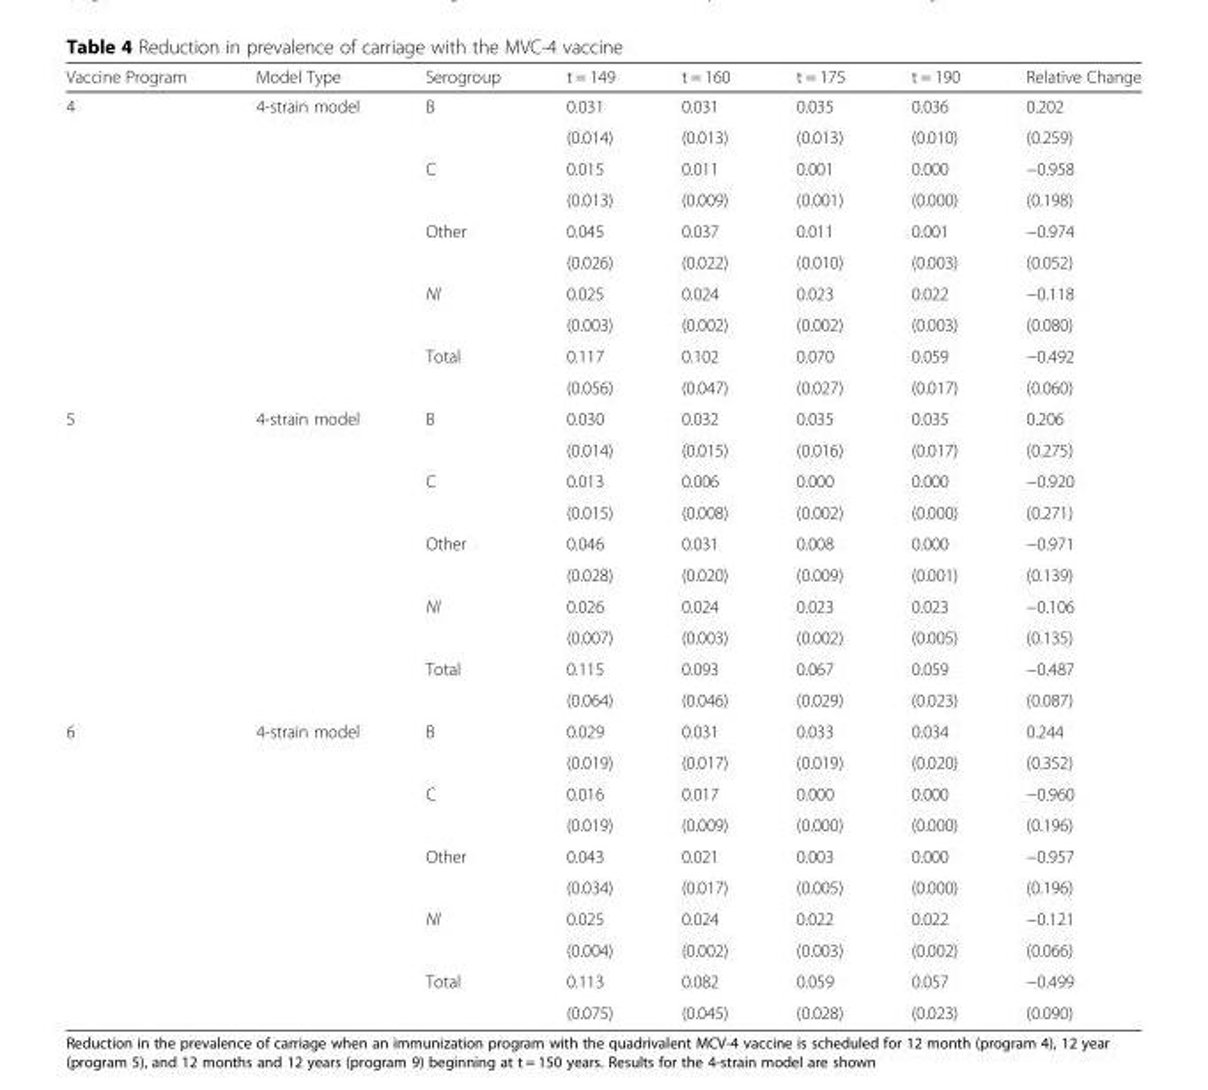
<table><thead><tr><td>Vaccine Program</td><td>Model Type</td><td>Serogroup</td><td>t = 149</td><td>t = 160</td><td>t = 175</td><td>t = 190</td><td>Relative Change</td></tr></thead><tbody><tr><td rowspan="10">4</td><td rowspan="10">4-strain model</td><td>B</td><td>0.031</td><td>0.031</td><td>0.035</td><td>0.036</td><td>0.202</td></tr><tr><td></td><td>(0.014)</td><td>(0.013)</td><td>(0.013)</td><td>(0.010)</td><td>(0.259)</td></tr><tr><td>C</td><td>0.015</td><td>0.011</td><td>0.001</td><td>0.000</td><td>−0.958</td></tr><tr><td></td><td>(0.013)</td><td>(0.009)</td><td>(0.001)</td><td>(0.000)</td><td>(0.198)</td></tr><tr><td>Other</td><td>0.045</td><td>0.037</td><td>0.011</td><td>0.001</td><td>−0.974</td></tr><tr><td></td><td>(0.026)</td><td>(0.022)</td><td>(0.010)</td><td>(0.003)</td><td>(0.052)</td></tr><tr><td>Nl</td><td>0.025</td><td>0.024</td><td>0.023</td><td>0.022</td><td>−0.118</td></tr><tr><td></td><td>(0.003)</td><td>(0.002)</td><td>(0.002)</td><td>(0.003)</td><td>(0.080)</td></tr><tr><td>Total</td><td>0.117</td><td>0.102</td><td>0.070</td><td>0.059</td><td>−0.492</td></tr><tr><td></td><td>(0.056)</td><td>(0.047)</td><td>(0.027)</td><td>(0.017)</td><td>(0.060)</td></tr><tr><td rowspan="10">5</td><td rowspan="10">4-strain model</td><td>B</td><td>0.030</td><td>0.032</td><td>0.035</td><td>0.035</td><td>0.206</td></tr><tr><td></td><td>(0.014)</td><td>(0.015)</td><td>(0.016)</td><td>(0.017)</td><td>(0.275)</td></tr><tr><td>C</td><td>0.013</td><td>0.006</td><td>0.000</td><td>0.000</td><td>−0.920</td></tr><tr><td></td><td>(0.015)</td><td>(0.008)</td><td>(0.002)</td><td>(0.000)</td><td>(0.271)</td></tr><tr><td>Other</td><td>0.046</td><td>0.031</td><td>0.008</td><td>0.000</td><td>−0.971</td></tr><tr><td></td><td>(0.028)</td><td>(0.020)</td><td>(0.009)</td><td>(0.001)</td><td>(0.139)</td></tr><tr><td>Nl</td><td>0.026</td><td>0.024</td><td>0.023</td><td>0.023</td><td>−0.106</td></tr><tr><td></td><td>(0.007)</td><td>(0.003)</td><td>(0.002)</td><td>(0.005)</td><td>(0.135)</td></tr><tr><td>Total</td><td>0.115</td><td>0.093</td><td>0.067</td><td>0.059</td><td>−0.487</td></tr><tr><td></td><td>(0.064)</td><td>(0.046)</td><td>(0.029)</td><td>(0.023)</td><td>(0.087)</td></tr><tr><td rowspan="10">6</td><td rowspan="10">4-strain model</td><td>B</td><td>0.029</td><td>0.031</td><td>0.033</td><td>0.034</td><td>0.244</td></tr><tr><td></td><td>(0.019)</td><td>(0.017)</td><td>(0.019)</td><td>(0.020)</td><td>(0.352)</td></tr><tr><td>C</td><td>0.016</td><td>0.017</td><td>0.000</td><td>0.000</td><td>−0.960</td></tr><tr><td></td><td>(0.019)</td><td>(0.009)</td><td>(0.000)</td><td>(0.000)</td><td>(0.196)</td></tr><tr><td>Other</td><td>0.043</td><td>0.021</td><td>0.003</td><td>0.000</td><td>−0.957</td></tr><tr><td></td><td>(0.034)</td><td>(0.017)</td><td>(0.005)</td><td>(0.000)</td><td>(0.196)</td></tr><tr><td>Nl</td><td>0.025</td><td>0.024</td><td>0.022</td><td>0.022</td><td>−0.121</td></tr><tr><td></td><td>(0.004)</td><td>(0.002)</td><td>(0.003)</td><td>(0.002)</td><td>(0.066)</td></tr><tr><td>Total</td><td>0.113</td><td>0.082</td><td>0.059</td><td>0.057</td><td>−0.499</td></tr><tr><td></td><td>(0.075)</td><td>(0.045)</td><td>(0.028)</td><td>(0.023)</td><td>(0.090)</td></tr></tbody></table>